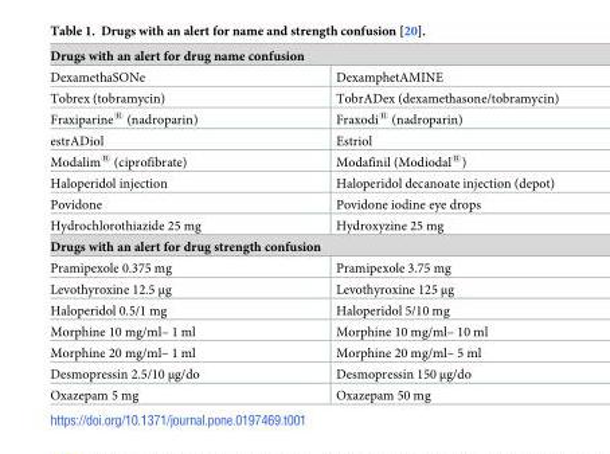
<table><tbody><tr><td colspan="2">Drugs with an alert for drug name confusion</td></tr><tr><td>DexamethaSONe</td><td>DexamphetAMINE</td></tr><tr><td>Tobrex (tobramycin)</td><td>TobrADex (dexamethasone/tobramycin)</td></tr><tr><td>Fraxiparine<sup>®</sup> (nadroparin)</td><td>Fraxodi<sup>®</sup> (nadroparin)</td></tr><tr><td>estrADiol</td><td>Estriol</td></tr><tr><td>Modalim<sup>®</sup> (ciprofibrate)</td><td>Modafinil (Modiodal<sup>®</sup>)</td></tr><tr><td>Haloperidol injection</td><td>Haloperidol decanoate injection (depot)</td></tr><tr><td>Povidone</td><td>Povidone iodine eye drops</td></tr><tr><td>Hydrochlorothiazide 25 mg</td><td>Hydroxyzine 25 mg</td></tr><tr><td colspan="2">Drugs with an alert for drug strength confusion</td></tr><tr><td>Pramipexole 0.375 mg</td><td>Pramipexole 3.75 mg</td></tr><tr><td>Levothyroxine 12.5 μg</td><td>Levothyroxine 125 μg</td></tr><tr><td>Haloperidol 0.5/1 mg</td><td>Haloperidol 5/10 mg</td></tr><tr><td>Morphine 10 mg/ml– 1 ml</td><td>Morphine 10 mg/ml– 10 ml</td></tr><tr><td>Morphine 20 mg/ml– 1 ml</td><td>Morphine 20 mg/ml– 5 ml</td></tr><tr><td>Desmopressin 2.5/10 μg/do</td><td>Desmopressin 150 μg/do</td></tr><tr><td>Oxazepam 5 mg</td><td>Oxazepam 50 mg</td></tr></tbody></table>